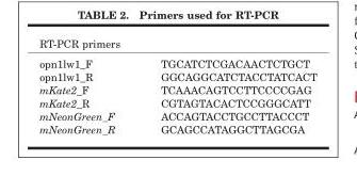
<table><thead><tr><td colspan="2">RT-PCR primers</td></tr><tr><td>opn1lw1_F</td><td>TGCATCTCGACAACTCTGCT</td></tr></thead><tbody><tr><td>opn1lw1_R</td><td>GGCAGGCATCTACCTATCACT</td></tr><tr><td>mKate2_F</td><td>TCAAACAGTCCTTCCCCGAG</td></tr><tr><td>mKate2_R</td><td>CGTAGTACACTCCGGGCATT</td></tr><tr><td>mNeonGreen_F</td><td>ACCAGTACCTGCCTTACCCT</td></tr><tr><td>mNeonGreen_R</td><td>GCAGCCATAGGCTTAGCGA</td></tr></tbody></table>